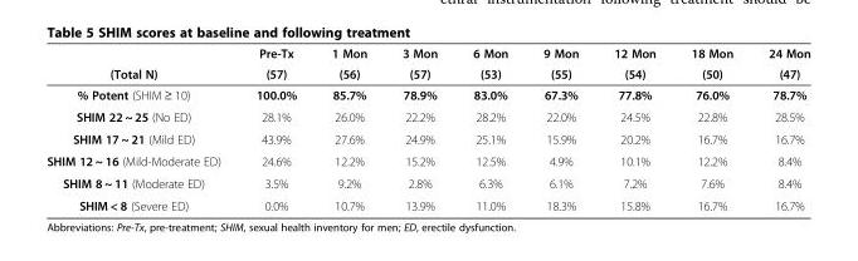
<table><thead><tr><td rowspan="2">(Total N)</td><td rowspan="2">Pre-Tx (57)</td><td rowspan="2">1 Mon (56)</td><td rowspan="2">3 Mon (57)</td><td rowspan="2">6 Mon (53)</td><td rowspan="2">9 Mon (55)</td><td rowspan="2">12 Mon (54)</td><td rowspan="2">18 Mon (50)</td><td rowspan="2">24 Mon (47)</td></tr><tr></tr></thead><tbody><tr><td>% Potent (SHIM ≥ 10)</td><td>100.0%</td><td>85.7%</td><td>78.9%</td><td>83.0%</td><td>67.3%</td><td>77.8%</td><td>76.0%</td><td>78.7%</td></tr><tr><td>SHIM 22 ~ 25 (No ED)</td><td>28.1%</td><td>26.0%</td><td>22.2%</td><td>28.2%</td><td>22.0%</td><td>24.5%</td><td>22.8%</td><td>28.5%</td></tr><tr><td>SHIM 17 ~ 21 (Mild ED)</td><td>43.9%</td><td>27.6%</td><td>24.9%</td><td>25.1%</td><td>15.9%</td><td>20.2%</td><td>16.7%</td><td>16.7%</td></tr><tr><td>SHIM 12 ~ 16 (Mild-Moderate ED)</td><td>24.6%</td><td>12.2%</td><td>15.2%</td><td>12.5%</td><td>4.9%</td><td>10.1%</td><td>12.2%</td><td>8.4%</td></tr><tr><td>SHIM 8 ~ 11 (Moderate ED)</td><td>3.5%</td><td>9.2%</td><td>2.8%</td><td>6.3%</td><td>6.1%</td><td>7.2%</td><td>7.6%</td><td>8.4%</td></tr><tr><td>SHIM &lt; 8 (Severe ED)</td><td>0.0%</td><td>10.7%</td><td>13.9%</td><td>11.0%</td><td>18.3%</td><td>15.8%</td><td>16.7%</td><td>16.7%</td></tr></tbody></table>